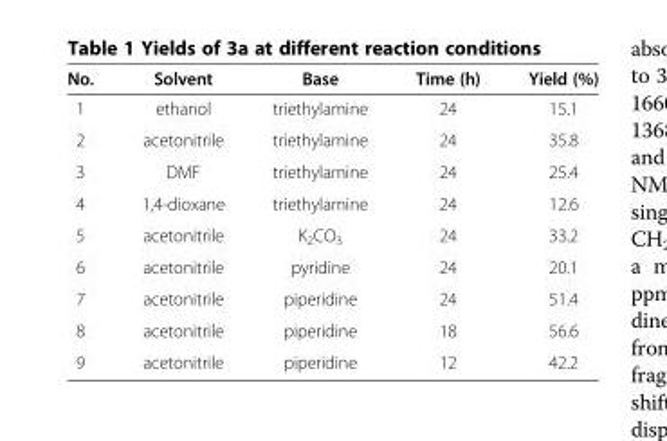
<table><thead><tr><td>No.</td><td>Solvent</td><td>Base</td><td>Time (h)</td><td>Yield (%)</td></tr></thead><tbody><tr><td>1</td><td>ethanol</td><td>triethylamine</td><td>24</td><td>15.1</td></tr><tr><td>2</td><td>acetonitrile</td><td>triethylamine</td><td>24</td><td>35.8</td></tr><tr><td>3</td><td>DMF</td><td>triethylamine</td><td>24</td><td>25.4</td></tr><tr><td>4</td><td>1,4-dioxane</td><td>triethylamine</td><td>24</td><td>12.6</td></tr><tr><td>5</td><td>acetonitrile</td><td>K<sub>2</sub>CO<sub>3</sub></td><td>24</td><td>33.2</td></tr><tr><td>6</td><td>acetonitrile</td><td>pyridine</td><td>24</td><td>20.1</td></tr><tr><td>7</td><td>acetonitrile</td><td>piperidine</td><td>24</td><td>51.4</td></tr><tr><td>8</td><td>acetonitrile</td><td>piperidine</td><td>18</td><td>56.6</td></tr><tr><td>9</td><td>acetonitrile</td><td>piperidine</td><td>12</td><td>42.2</td></tr></tbody></table>